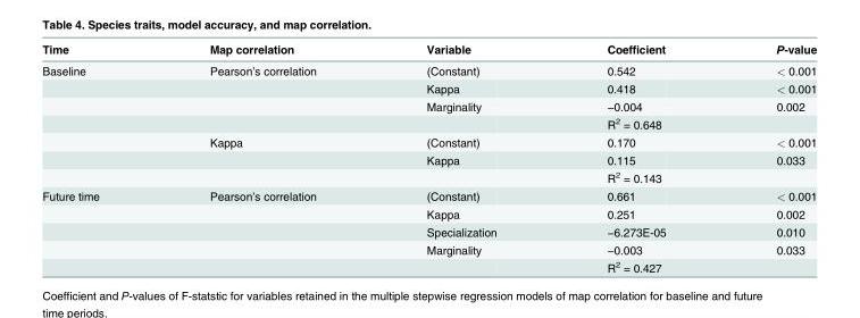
<table><thead><tr><td>Time</td><td>Map correlation</td><td>Variable</td><td>Coefficient</td><td>P-value</td></tr></thead><tbody><tr><td rowspan="7">Baseline</td><td>Pearson’s correlation</td><td>(Constant)</td><td>0.542</td><td>&lt; 0.001</td></tr><tr><td></td><td>Kappa</td><td>0.418</td><td>&lt; 0.001</td></tr><tr><td></td><td>Marginality</td><td>−0.004</td><td>0.002</td></tr><tr><td></td><td></td><td colspan="2">R<sup>2</sup> = 0.648</td></tr><tr><td>Kappa</td><td>(Constant)</td><td>0.170</td><td>&lt; 0.001</td></tr><tr><td></td><td>Kappa</td><td>0.115</td><td>0.033</td></tr><tr><td></td><td></td><td colspan="2">R<sup>2</sup> = 0.143</td></tr><tr><td rowspan="5">Future time</td><td>Pearson’s correlation</td><td>(Constant)</td><td>0.661</td><td>&lt; 0.001</td></tr><tr><td></td><td>Kappa</td><td>0.251</td><td>0.002</td></tr><tr><td></td><td>Specialization</td><td>−6.273E-05</td><td>0.010</td></tr><tr><td></td><td>Marginality</td><td>−0.003</td><td>0.033</td></tr><tr><td></td><td></td><td colspan="2">R<sup>2</sup> = 0.427</td></tr></tbody></table>